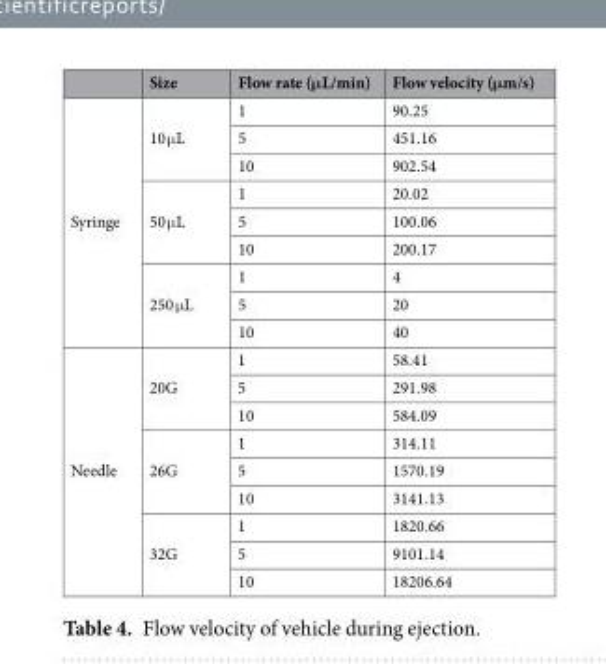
<table><thead><tr><td></td><td>Size</td><td>Flow rate (μL/min)</td><td>Flow velocity (μm/s)</td></tr></thead><tbody><tr><td rowspan="9">Syringe</td><td rowspan="3">10 μL</td><td>1</td><td>90.25</td></tr><tr><td>5</td><td>451.16</td></tr><tr><td>10</td><td>902.54</td></tr><tr><td rowspan="3">50 μL</td><td>1</td><td>20.02</td></tr><tr><td>5</td><td>100.06</td></tr><tr><td>10</td><td>200.17</td></tr><tr><td rowspan="3">250 μL</td><td>1</td><td>4</td></tr><tr><td>5</td><td>20</td></tr><tr><td>10</td><td>40</td></tr><tr><td rowspan="9">Needle</td><td rowspan="3">20G</td><td>1</td><td>58.41</td></tr><tr><td>5</td><td>291.98</td></tr><tr><td>10</td><td>584.09</td></tr><tr><td rowspan="3">26G</td><td>1</td><td>314.11</td></tr><tr><td>5</td><td>1570.19</td></tr><tr><td>10</td><td>3141.13</td></tr><tr><td rowspan="3">32G</td><td>1</td><td>1820.66</td></tr><tr><td>5</td><td>9101.14</td></tr><tr><td>10</td><td>18206.64</td></tr></tbody></table>